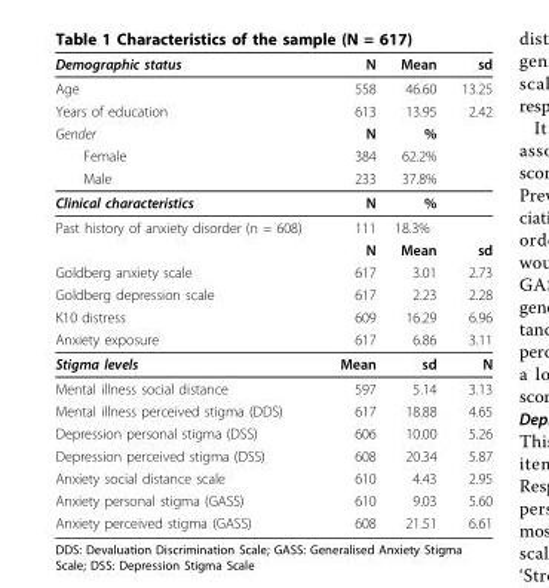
<table><thead><tr><td>Demographic status</td><td>N</td><td>Mean</td><td>sd</td></tr></thead><tbody><tr><td>Age</td><td>558</td><td>46.60</td><td>13.25</td></tr><tr><td>Years of education</td><td>613</td><td>13.95</td><td>2.42</td></tr><tr><td>Gender</td><td>N</td><td>%</td><td></td></tr><tr><td>Female</td><td>384</td><td>62.2%</td><td></td></tr><tr><td>Male</td><td>233</td><td>37.8%</td><td></td></tr><tr><td>Clinical characteristics</td><td>N</td><td>%</td><td></td></tr><tr><td rowspan="2">Past history of anxiety disorder (n = 608)</td><td>111</td><td>18.3%</td><td></td></tr><tr><td>N</td><td>Mean</td><td>sd</td></tr><tr><td>Goldberg anxiety scale</td><td>617</td><td>3.01</td><td>2.73</td></tr><tr><td>Goldberg depression scale</td><td>617</td><td>2.23</td><td>2.28</td></tr><tr><td>K10 distress</td><td>609</td><td>16.29</td><td>6.96</td></tr><tr><td>Anxiety exposure</td><td>617</td><td>6.86</td><td>3.11</td></tr><tr><td>Stigma levels</td><td>Mean</td><td>sd</td><td>N</td></tr><tr><td>Mental illness social distance</td><td>597</td><td>5.14</td><td>3.13</td></tr><tr><td>Mental illness perceived stigma (DDS)</td><td>617</td><td>18.88</td><td>4.65</td></tr><tr><td>Depression personal stigma (DSS)</td><td>606</td><td>10.00</td><td>5.26</td></tr><tr><td>Depression perceived stigma (DSS)</td><td>608</td><td>20.34</td><td>5.87</td></tr><tr><td>Anxiety social distance scale</td><td>610</td><td>4.43</td><td>2.95</td></tr><tr><td>Anxiety personal stigma (GASS)</td><td>610</td><td>9.03</td><td>5.60</td></tr><tr><td>Anxiety perceived stigma (GASS)</td><td>608</td><td>21.51</td><td>6.61</td></tr></tbody></table>